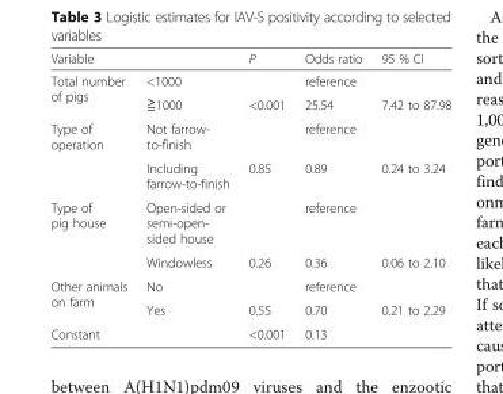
<table><thead><tr><td>Variable</td><td></td><td>P</td><td>Odds ratio</td><td>95 % CI</td></tr></thead><tbody><tr><td rowspan="2">Total number of pigs</td><td>&lt;1000</td><td></td><td colspan="2">reference</td></tr><tr><td>≧1000</td><td>&lt;0.001</td><td>25.54</td><td>7.42 to 87.98</td></tr><tr><td rowspan="2">Type of operation</td><td>Not farrow- to-finish</td><td></td><td colspan="2">reference</td></tr><tr><td>Including farrow-to-finish</td><td>0.85</td><td>0.89</td><td>0.24 to 3.24</td></tr><tr><td rowspan="2">Type of pig house</td><td>Open-sided or semi-open- sided house</td><td></td><td colspan="2">reference</td></tr><tr><td>Windowless</td><td>0.26</td><td>0.36</td><td>0.06 to 2.10</td></tr><tr><td rowspan="2">Other animals on farm</td><td>No</td><td></td><td colspan="2">reference</td></tr><tr><td>Yes</td><td>0.55</td><td>0.70</td><td>0.21 to 2.29</td></tr><tr><td>Constant</td><td></td><td>&lt;0.001</td><td>0.13</td><td></td></tr></tbody></table>